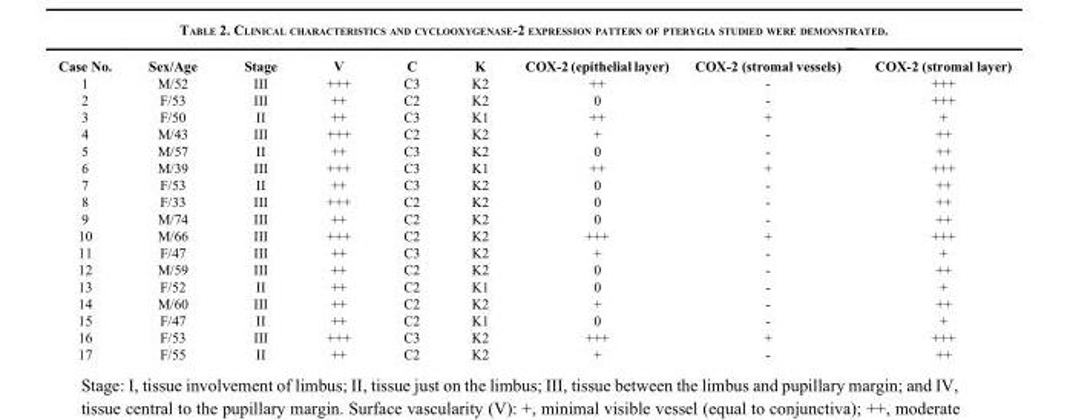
<table><thead><tr><td>Case No.</td><td>Sex/Age</td><td>Stage</td><td>V</td><td>C</td><td>K</td><td>COX-2 (epithelial layer)</td><td>COX-2 (stromal vessels)</td><td>COX-2 (stromal layer)</td></tr></thead><tbody><tr><td>1</td><td>M/52</td><td>III</td><td>+++</td><td>C3</td><td>K2</td><td>++</td><td>-</td><td>+++</td></tr><tr><td>2</td><td>F/53</td><td>III</td><td>++</td><td>C2</td><td>K2</td><td>0</td><td>-</td><td>+++</td></tr><tr><td>3</td><td>F/50</td><td>II</td><td>++</td><td>C3</td><td>K1</td><td>++</td><td>+</td><td>+</td></tr><tr><td>4</td><td>M/43</td><td>III</td><td>+++</td><td>C2</td><td>K2</td><td>+</td><td>-</td><td>++</td></tr><tr><td>5</td><td>M/57</td><td>II</td><td>++</td><td>C3</td><td>K2</td><td>0</td><td>-</td><td>++</td></tr><tr><td>6</td><td>M/39</td><td>III</td><td>+++</td><td>C3</td><td>K1</td><td>++</td><td>+</td><td>+++</td></tr><tr><td>7</td><td>F/53</td><td>II</td><td>++</td><td>C3</td><td>K2</td><td>0</td><td>-</td><td>++</td></tr><tr><td>8</td><td>F/33</td><td>III</td><td>+++</td><td>C2</td><td>K2</td><td>0</td><td>-</td><td>++</td></tr><tr><td>9</td><td>M/74</td><td>III</td><td>++</td><td>C2</td><td>K2</td><td>0</td><td>-</td><td>++</td></tr><tr><td>10</td><td>M/66</td><td>III</td><td>+++</td><td>C2</td><td>K2</td><td>+++</td><td>+</td><td>+++</td></tr><tr><td>11</td><td>F/47</td><td>III</td><td>++</td><td>C3</td><td>K2</td><td>+</td><td>-</td><td>+</td></tr><tr><td>12</td><td>M/59</td><td>III</td><td>++</td><td>C2</td><td>K2</td><td>0</td><td>-</td><td>++</td></tr><tr><td>13</td><td>F/52</td><td>II</td><td>++</td><td>C2</td><td>K1</td><td>0</td><td>-</td><td>+</td></tr><tr><td>14</td><td>M/60</td><td>III</td><td>++</td><td>C2</td><td>K2</td><td>+</td><td>-</td><td>++</td></tr><tr><td>15</td><td>F/47</td><td>II</td><td>++</td><td>C2</td><td>K1</td><td>0</td><td>-</td><td>+</td></tr><tr><td>16</td><td>F/53</td><td>III</td><td>+++</td><td>C3</td><td>K2</td><td>+++</td><td>+</td><td>+++</td></tr><tr><td>17</td><td>F/55</td><td>II</td><td>++</td><td>C2</td><td>K2</td><td>+</td><td>-</td><td>++</td></tr></tbody></table>